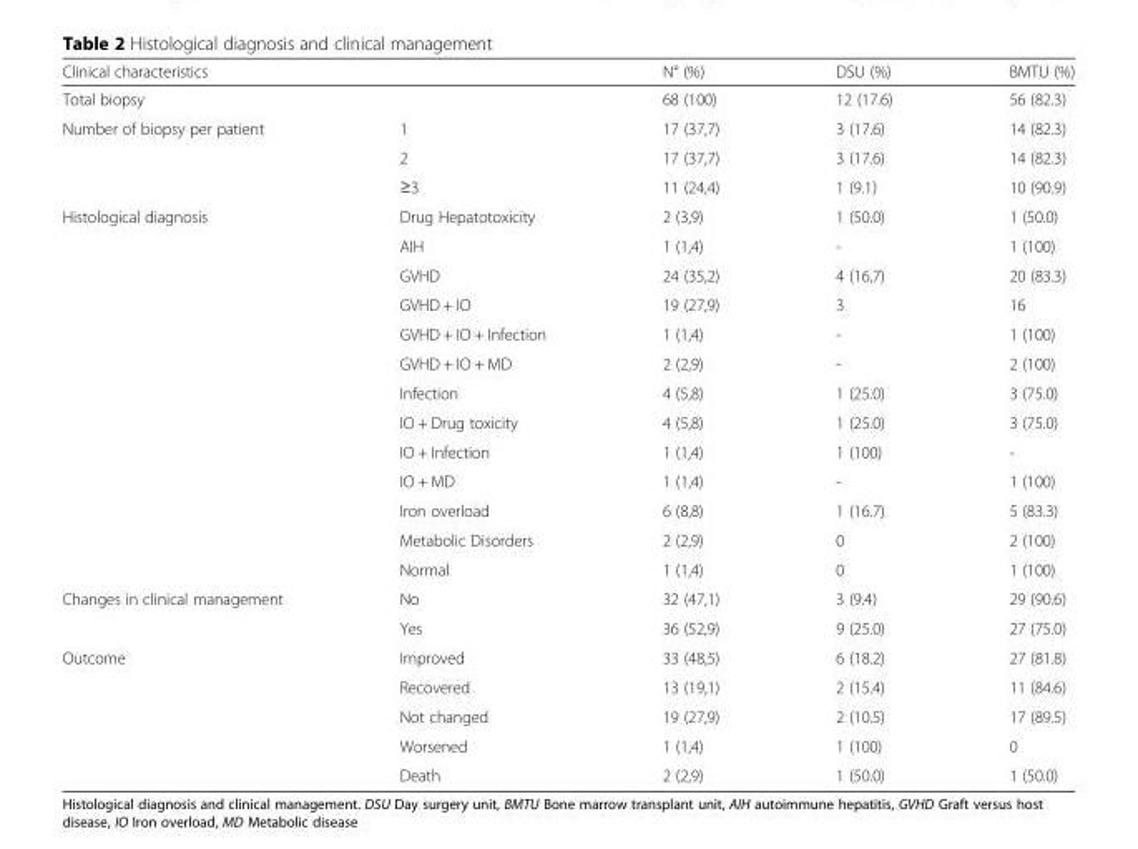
<table><thead><tr><td>Clinical characteristics</td><td></td><td>N° (%)</td><td>DSU (%)</td><td>BMTU (%)</td></tr></thead><tbody><tr><td>Total biopsy</td><td></td><td>68 (100)</td><td>12 (17.6)</td><td>56 (82.3)</td></tr><tr><td rowspan="3">Number of biopsy per patient</td><td>1</td><td>17 (37,7)</td><td>3 (17.6)</td><td>14 (82.3)</td></tr><tr><td>2</td><td>17 (37,7)</td><td>3 (17.6)</td><td>14 (82.3)</td></tr><tr><td>≥3</td><td>11 (24,4)</td><td>1 (9.1)</td><td>10 (90.9)</td></tr><tr><td rowspan="13">Histological diagnosis</td><td>Drug Hepatotoxicity</td><td>2 (3,9)</td><td>1 (50.0)</td><td>1 (50.0)</td></tr><tr><td>AIH</td><td>1 (1,4)</td><td>-</td><td>1 (100)</td></tr><tr><td>GVHD</td><td>24 (35,2)</td><td>4 (16,7)</td><td>20 (83.3)</td></tr><tr><td>GVHD + IO</td><td>19 (27,9)</td><td>3</td><td>16</td></tr><tr><td>GVHD + IO + Infection</td><td>1 (1,4)</td><td>-</td><td>1 (100)</td></tr><tr><td>GVHD + IO + MD</td><td>2 (2,9)</td><td>-</td><td>2 (100)</td></tr><tr><td>Infection</td><td>4 (5,8)</td><td>1 (25.0)</td><td>3 (75.0)</td></tr><tr><td>IO + Drug toxicity</td><td>4 (5,8)</td><td>1 (25.0)</td><td>3 (75.0)</td></tr><tr><td>IO + Infection</td><td>1 (1,4)</td><td>1 (100)</td><td>-</td></tr><tr><td>IO + MD</td><td>1 (1,4)</td><td>-</td><td>1 (100)</td></tr><tr><td>Iron overload</td><td>6 (8,8)</td><td>1 (16.7)</td><td>5 (83.3)</td></tr><tr><td>Metabolic Disorders</td><td>2 (2,9)</td><td>0</td><td>2 (100)</td></tr><tr><td>Normal</td><td>1 (1,4)</td><td>0</td><td>1 (100)</td></tr><tr><td rowspan="2">Changes in clinical management</td><td>No</td><td>32 (47,1)</td><td>3 (9.4)</td><td>29 (90.6)</td></tr><tr><td>Yes</td><td>36 (52,9)</td><td>9 (25.0)</td><td>27 (75.0)</td></tr><tr><td rowspan="5">Outcome</td><td>Improved</td><td>33 (48,5)</td><td>6 (18.2)</td><td>27 (81.8)</td></tr><tr><td>Recovered</td><td>13 (19,1)</td><td>2 (15.4)</td><td>11 (84.6)</td></tr><tr><td>Not changed</td><td>19 (27,9)</td><td>2 (10.5)</td><td>17 (89.5)</td></tr><tr><td>Worsened</td><td>1 (1,4)</td><td>1 (100)</td><td>0</td></tr><tr><td>Death</td><td>2 (2,9)</td><td>1 (50.0)</td><td>1 (50.0)</td></tr></tbody></table>